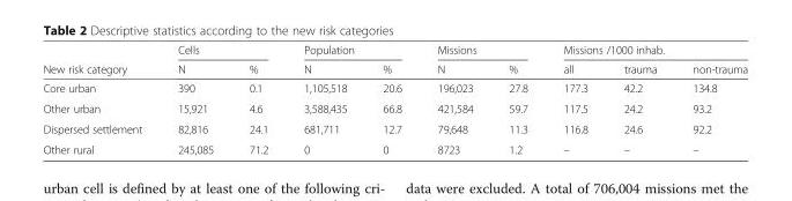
<table><thead><tr><td rowspan="2">New risk category</td><td colspan="2">Cells</td><td colspan="2">Population</td><td colspan="2">Missions</td><td colspan="3">Missions /1000 inhab.</td></tr><tr><td>N</td><td>%</td><td>N</td><td>%</td><td>N</td><td>%</td><td>all</td><td>trauma</td><td>non-trauma</td></tr></thead><tbody><tr><td>Core urban</td><td>390</td><td>0.1</td><td>1,105,518</td><td>20.6</td><td>196,023</td><td>27.8</td><td>177.3</td><td>42.2</td><td>134.8</td></tr><tr><td>Other urban</td><td>15,921</td><td>4.6</td><td>3,588,435</td><td>66.8</td><td>421,584</td><td>59.7</td><td>117.5</td><td>24.2</td><td>93.2</td></tr><tr><td>Dispersed settlement</td><td>82,816</td><td>24.1</td><td>681,711</td><td>12.7</td><td>79,648</td><td>11.3</td><td>116.8</td><td>24.6</td><td>92.2</td></tr><tr><td>Other rural</td><td>245,085</td><td>71.2</td><td>0</td><td>0</td><td>8723</td><td>1.2</td><td>–</td><td>–</td><td>–</td></tr></tbody></table>